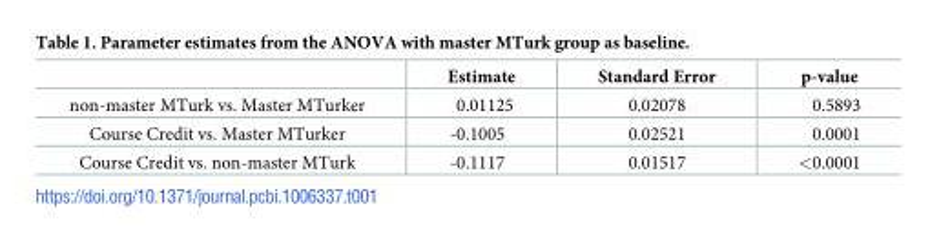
<table><thead><tr><td></td><td>Estimate</td><td>Standard Error</td><td>p-value</td></tr></thead><tbody><tr><td>non-master MTurk vs. Master MTurker</td><td>0.01125</td><td>0.02078</td><td>0.5893</td></tr><tr><td>Course Credit vs. Master MTurker</td><td>-0.1005</td><td>0.02521</td><td>0.0001</td></tr><tr><td>Course Credit vs. non-master MTurk</td><td>-0.1117</td><td>0.01517</td><td>&lt;0.0001</td></tr></tbody></table>